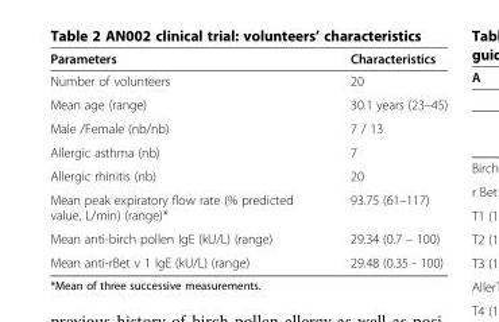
<table><thead><tr><td>Parameters</td><td>Characteristics</td></tr></thead><tbody><tr><td>Number of volunteers</td><td>20</td></tr><tr><td>Mean age (range)</td><td>30.1 years (23–45)</td></tr><tr><td>Male /Female (nb/nb)</td><td>7 / 13</td></tr><tr><td>Allergic asthma (nb)</td><td>7</td></tr><tr><td>Allergic rhinitis (nb)</td><td>20</td></tr><tr><td>Mean peak expiratory flow rate (% predicted value, L/min) (range)*</td><td>93.75 (61–117)</td></tr><tr><td>Mean anti-birch pollen IgE (kU/L) (range)</td><td>29.34 (0.7 – 100)</td></tr><tr><td>Mean anti-rBet v 1 IgE (kU/L) (range)</td><td>29.48 (0.35 - 100)</td></tr></tbody></table>